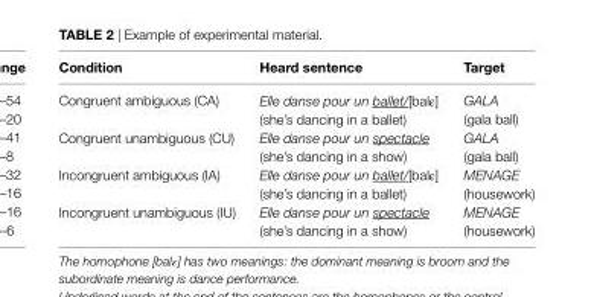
<table><thead><tr><td>condition</td><td>heard sentence</td><td>Target</td></tr></thead><tbody><tr><td>Congruent ambiguous (CA)</td><td>Elle danse pour un ballet/[balε] (she’s dancing in a ballet)</td><td>GALA (gala ball)</td></tr><tr><td>Congruent unambiguous (CU)</td><td>Elle danse pour un spectacle (she’s dancing in a show)</td><td>GALA (gala ball)</td></tr><tr><td>Incongruent ambiguous (IA)</td><td>Elle danse pour un ballet/[balε] (she’s dancing in a ballet)</td><td>MENAGE (housework)</td></tr><tr><td>Incongruent unambiguous (IU)</td><td>Elle danse pour un spectacle (she’s dancing in a show)</td><td>MENAGE (housework)</td></tr></tbody></table>